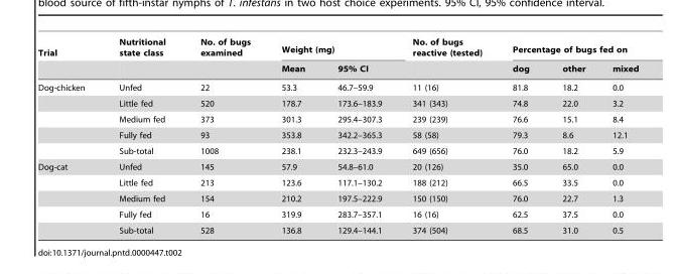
<table><thead><tr><td rowspan="2">Trial</td><td rowspan="2">Nutritional state class</td><td rowspan="2">No. of bugs examined</td><td colspan="2">Weight (mg)</td><td rowspan="2">No. of bugs reactive (tested)</td><td colspan="3">Percentage of bugs fed on</td></tr><tr><td>Mean</td><td>95% CI</td><td>dog</td><td>other</td><td>mixed</td></tr></thead><tbody><tr><td rowspan="5">Dog-chicken</td><td>Unfed</td><td>22</td><td>53.3</td><td>46.7–59.9</td><td>11 (16)</td><td>81.8</td><td>18.2</td><td>0.0</td></tr><tr><td>Little fed</td><td>520</td><td>178.7</td><td>173.6–183.9</td><td>341 (343)</td><td>74.8</td><td>22.0</td><td>3.2</td></tr><tr><td>Medium fed</td><td>373</td><td>301.3</td><td>295.4–307.3</td><td>239 (239)</td><td>76.6</td><td>15.1</td><td>8.4</td></tr><tr><td>Fully fed</td><td>93</td><td>353.8</td><td>342.2–365.3</td><td>58 (58)</td><td>79.3</td><td>8.6</td><td>12.1</td></tr><tr><td>Sub-total</td><td>1008</td><td>238.1</td><td>232.3–243.9</td><td>649 (656)</td><td>76.0</td><td>18.2</td><td>5.9</td></tr><tr><td rowspan="5">Dog-cat</td><td>Unfed</td><td>145</td><td>57.9</td><td>54.8–61.0</td><td>20 (126)</td><td>35.0</td><td>65.0</td><td>0.0</td></tr><tr><td>Little fed</td><td>213</td><td>123.6</td><td>117.1–130.2</td><td>188 (212)</td><td>66.5</td><td>33.5</td><td>0.0</td></tr><tr><td>Medium fed</td><td>154</td><td>210.2</td><td>197.5–222.9</td><td>150 (150)</td><td>76.0</td><td>22.7</td><td>1.3</td></tr><tr><td>Fully fed</td><td>16</td><td>319.9</td><td>283.7–357.1</td><td>16 (16)</td><td>62.5</td><td>37.5</td><td>0.0</td></tr><tr><td>Sub-total</td><td>528</td><td>136.8</td><td>129.4–144.1</td><td>374 (504)</td><td>68.5</td><td>31.0</td><td>0.5</td></tr></tbody></table>